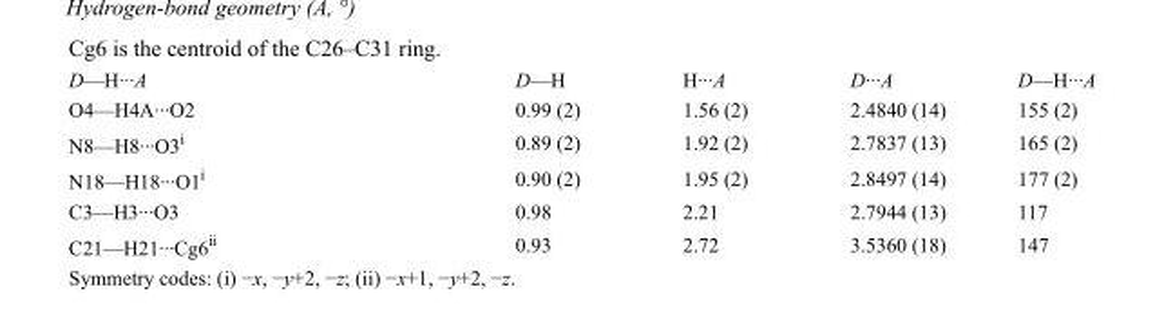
<table><tbody><tr><td>D—H···A</td><td>D—H</td><td>H···A</td><td>D···A</td><td>D—H···A</td></tr><tr><td>O4—H4A···O2</td><td>0.99 (2)</td><td>1.56 (2)</td><td>2.4840 (14)</td><td>155 (2)</td></tr><tr><td>N8—H8···O3<sup>i</sup></td><td>0.89 (2)</td><td>1.92 (2)</td><td>2.7837 (13)</td><td>165 (2)</td></tr><tr><td>N18—H18···O1<sup>i</sup></td><td>0.90 (2)</td><td>1.95 (2)</td><td>2.8497 (14)</td><td>177 (2)</td></tr><tr><td>C3—H3···O3</td><td>0.98</td><td>2.21</td><td>2.7944 (13)</td><td>117</td></tr><tr><td>C21—H21···Cg6<sup>ii</sup></td><td>0.93</td><td>2.72</td><td>3.5360 (18)</td><td>147</td></tr></tbody></table>